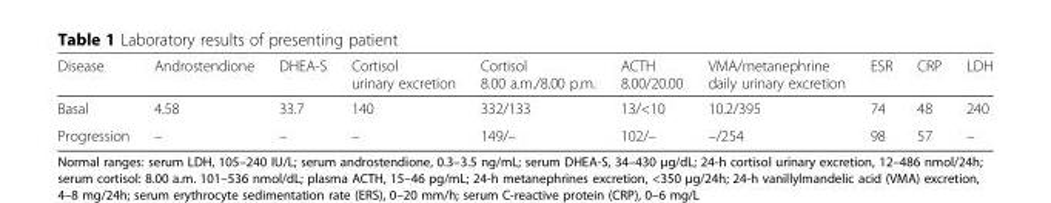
<table><thead><tr><td>Disease</td><td>Androstendione</td><td>DHEA-S</td><td>Cortisol urinary excretion</td><td>Cortisol 8.00 a.m./8.00 p.m.</td><td>ACTH 8.00/20.00</td><td>VMA/metanephrine daily urinary excretion</td><td>ESR</td><td>CRP</td><td>LDH</td></tr></thead><tbody><tr><td>Basal</td><td>4.58</td><td>33.7</td><td>140</td><td>332/133</td><td>13/&lt;10</td><td>10.2/395</td><td>74</td><td>48</td><td>240</td></tr><tr><td>Progression</td><td>–</td><td>–</td><td>–</td><td>149/–</td><td>102/–</td><td>–/254</td><td>98</td><td>57</td><td>–</td></tr></tbody></table>